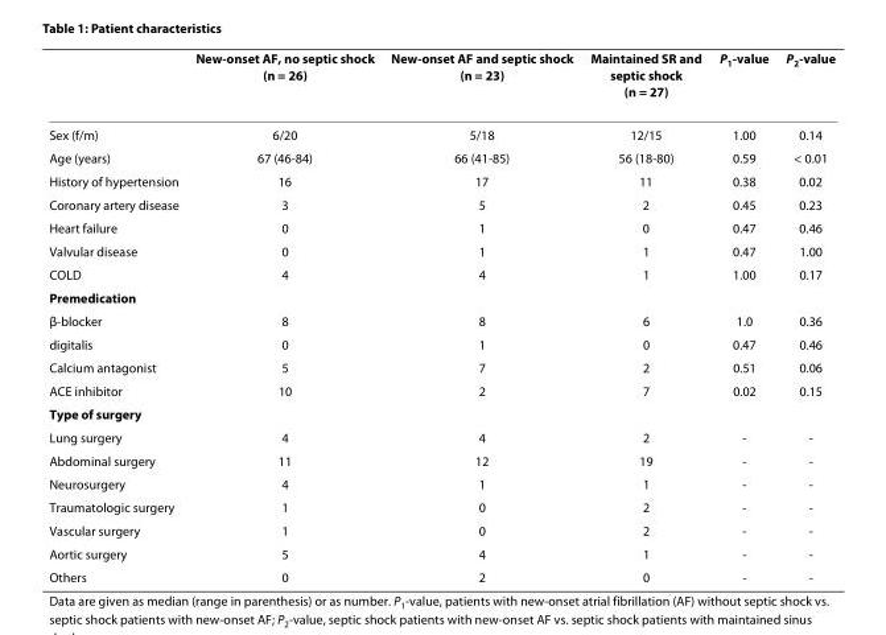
<table><thead><tr><td></td><td>New-onset AF, no septic shock (n = 26)</td><td>New-onset AF and septic shock (n = 23)</td><td>Maintained SR and septic shock (n = 27)</td><td>P<sub>1</sub>-value</td><td>P<sub>2</sub>-value</td></tr></thead><tbody><tr><td>Sex (f/m)</td><td>6/20</td><td>5/18</td><td>12/15</td><td>1.00</td><td>0.14</td></tr><tr><td>Age (years)</td><td>67 (46-84)</td><td>66 (41-85)</td><td>56 (18-80)</td><td>0.59</td><td>&lt; 0.01</td></tr><tr><td>History of hypertension</td><td>16</td><td>17</td><td>11</td><td>0.38</td><td>0.02</td></tr><tr><td>Coronary artery disease</td><td>3</td><td>5</td><td>2</td><td>0.45</td><td>0.23</td></tr><tr><td>Heart failure</td><td>0</td><td>1</td><td>0</td><td>0.47</td><td>0.46</td></tr><tr><td>Valvular disease</td><td>0</td><td>1</td><td>1</td><td>0.47</td><td>1.00</td></tr><tr><td>COLD</td><td>4</td><td>4</td><td>1</td><td>1.00</td><td>0.17</td></tr><tr><td colspan="6">Premedication</td></tr><tr><td>β-blocker</td><td>8</td><td>8</td><td>6</td><td>1.0</td><td>0.36</td></tr><tr><td>digitalis</td><td>0</td><td>1</td><td>0</td><td>0.47</td><td>0.46</td></tr><tr><td>Calcium antagonist</td><td>5</td><td>7</td><td>2</td><td>0.51</td><td>0.06</td></tr><tr><td>ACE inhibitor</td><td>10</td><td>2</td><td>7</td><td>0.02</td><td>0.15</td></tr><tr><td colspan="6">Type of surgery</td></tr><tr><td>Lung surgery</td><td>4</td><td>4</td><td>2</td><td>-</td><td>-</td></tr><tr><td>Abdominal surgery</td><td>11</td><td>12</td><td>19</td><td>-</td><td>-</td></tr><tr><td>Neurosurgery</td><td>4</td><td>1</td><td>1</td><td>-</td><td>-</td></tr><tr><td>Traumatologic surgery</td><td>1</td><td>0</td><td>2</td><td>-</td><td>-</td></tr><tr><td>Vascular surgery</td><td>1</td><td>0</td><td>2</td><td>-</td><td>-</td></tr><tr><td>Aortic surgery</td><td>5</td><td>4</td><td>1</td><td>-</td><td>-</td></tr><tr><td>Others</td><td>0</td><td>2</td><td>0</td><td>-</td><td>-</td></tr></tbody></table>